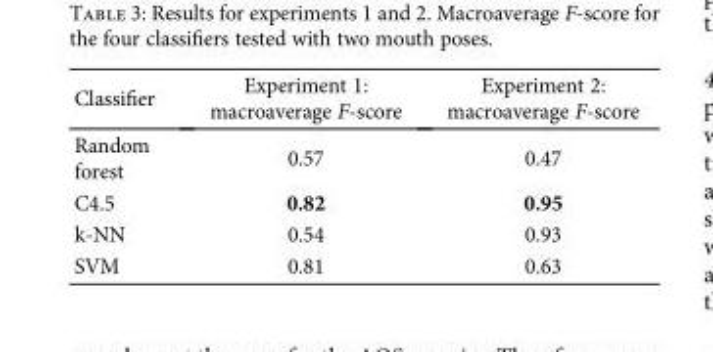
<table><thead><tr><td>Classifier</td><td>Experiment 1: macroaverage F-score</td><td>Experiment 2: macroaverage F-score</td></tr></thead><tbody><tr><td>Random forest</td><td>0.57</td><td>0.47</td></tr><tr><td>C4.5</td><td>0.82</td><td>0.95</td></tr><tr><td>k-NN</td><td>0.54</td><td>0.93</td></tr><tr><td>SVM</td><td>0.81</td><td>0.63</td></tr></tbody></table>